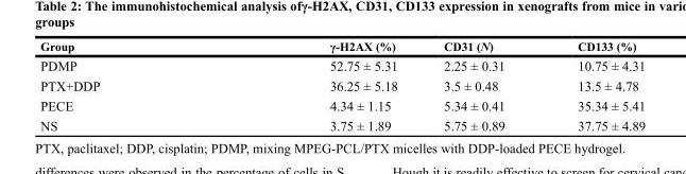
<table><thead><tr><td>Group</td><td>γ-H2AX (%)</td><td>CD31 (N)</td><td>CD133 (%)</td></tr></thead><tbody><tr><td>PDMP</td><td>52.75 ± 5.31</td><td>2.25 ± 0.31</td><td>10.75 ± 4.31</td></tr><tr><td>PTX+DDP</td><td>36.25 ± 5.18</td><td>3.5 ± 0.48</td><td>13.5 ± 4.78</td></tr><tr><td>PECE</td><td>4.34 ± 1.15</td><td>5.34 ± 0.41</td><td>35.34 ± 5.41</td></tr><tr><td>NS</td><td>3.75 ± 1.89</td><td>5.75 ± 0.89</td><td>37.75 ± 4.89</td></tr></tbody></table>